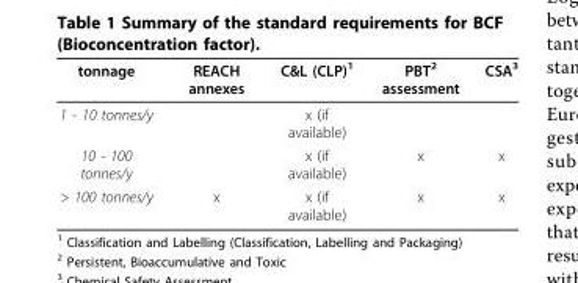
<table><thead><tr><td>tonnage</td><td>REACH annexes</td><td>C&amp;L (CLP)<sup>1</sup></td><td>PBT<sup>2</sup> assessment</td><td>CSA<sup>3</sup></td></tr></thead><tbody><tr><td>1 - 10 tonnes/y</td><td></td><td>x (if available)</td><td></td><td></td></tr><tr><td>10 - 100 tonnes/y</td><td></td><td>x (if available)</td><td>x</td><td>x</td></tr><tr><td>&gt; 100 tonnes/y</td><td>x</td><td>x (if available)</td><td>x</td><td>x</td></tr></tbody></table>